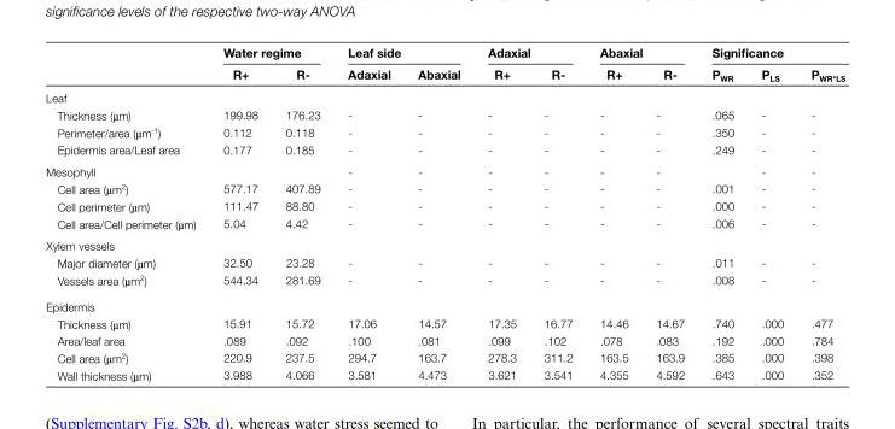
<table><thead><tr><td rowspan="2"></td><td colspan="2">Water regime</td><td colspan="2">Leaf side</td><td colspan="2">Adaxial</td><td colspan="2">Abaxial</td><td colspan="3">Significance</td></tr><tr><td>R+</td><td>R-</td><td>Adaxial</td><td>Abaxial</td><td>R+</td><td>R-</td><td>R+</td><td>R-</td><td>P<sub>WR</sub></td><td>P<sub>LS</sub></td><td>P<sub>WR*LS</sub></td></tr></thead><tbody><tr><td colspan="12">Leaf</td></tr><tr><td>Thickness (µm)</td><td>199.98</td><td>176.23</td><td>-</td><td>-</td><td>-</td><td>-</td><td>-</td><td>-</td><td>.065</td><td>-</td><td>-</td></tr><tr><td>Perimeter/area (µm<sup>-1</sup>)</td><td>0.112</td><td>0.118</td><td>-</td><td>-</td><td>-</td><td>-</td><td>-</td><td>-</td><td>.350</td><td>-</td><td>-</td></tr><tr><td>Epidermis area/Leaf area</td><td>0.177</td><td>0.185</td><td>-</td><td>-</td><td>-</td><td>-</td><td>-</td><td>-</td><td>.249</td><td>-</td><td>-</td></tr><tr><td>Mesophyll</td><td></td><td></td><td>-</td><td>-</td><td>-</td><td>-</td><td>-</td><td>-</td><td></td><td>-</td><td>-</td></tr><tr><td>Cell area (µm<sup>2</sup>)</td><td>577.17</td><td>407.89</td><td>-</td><td>-</td><td>-</td><td>-</td><td>-</td><td>-</td><td>.001</td><td>-</td><td>-</td></tr><tr><td>Cell perimeter (µm)</td><td>111.47</td><td>88.80</td><td>-</td><td>-</td><td>-</td><td>-</td><td>-</td><td>-</td><td>.000</td><td>-</td><td>-</td></tr><tr><td>Cell area/Cell perimeter (µm)</td><td>5.04</td><td>4.42</td><td>-</td><td>-</td><td>-</td><td>-</td><td>-</td><td>-</td><td>.006</td><td>-</td><td>-</td></tr><tr><td colspan="12">Xylem vessels</td></tr><tr><td>Major diameter (µm)</td><td>32.50</td><td>23.28</td><td>-</td><td>-</td><td>-</td><td>-</td><td>-</td><td>-</td><td>.011</td><td>-</td><td>-</td></tr><tr><td>Vessels area (µm<sup>2</sup>)</td><td>544.34</td><td>281.69</td><td>-</td><td>-</td><td>-</td><td>-</td><td>-</td><td>-</td><td>.008</td><td>-</td><td>-</td></tr><tr><td colspan="12">Epidermis</td></tr><tr><td>Thickness (µm)</td><td>15.91</td><td>15.72</td><td>17.06</td><td>14.57</td><td>17.35</td><td>16.77</td><td>14.46</td><td>14.67</td><td>.740</td><td>.000</td><td>.477</td></tr><tr><td>Area/leaf area</td><td>.089</td><td>.092</td><td>.100</td><td>.081</td><td>.099</td><td>.102</td><td>.078</td><td>.083</td><td>.192</td><td>.000</td><td>.784</td></tr><tr><td>Cell area (µm<sup>2</sup>)</td><td>220.9</td><td>237.5</td><td>294.7</td><td>163.7</td><td>278.3</td><td>311.2</td><td>163.5</td><td>163.9</td><td>.385</td><td>.000</td><td>.398</td></tr><tr><td>Wall thickness (µm)</td><td>3.988</td><td>4.066</td><td>3.581</td><td>4.473</td><td>3.621</td><td>3.541</td><td>4.355</td><td>4.592</td><td>.643</td><td>.000</td><td>.352</td></tr></tbody></table>